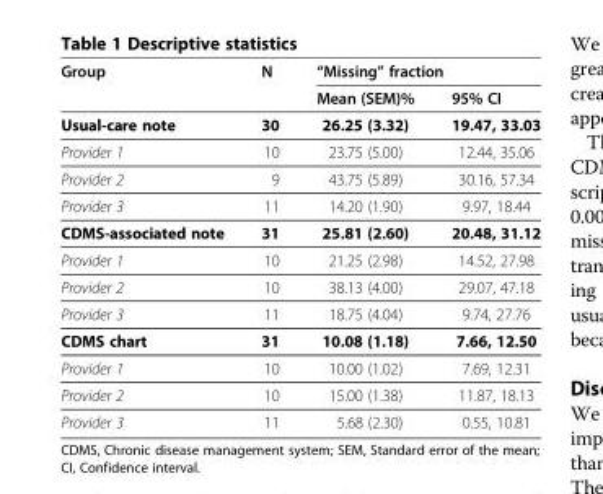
<table><thead><tr><td rowspan="2">Group</td><td rowspan="2">N</td><td colspan="2">“Missing” fraction</td></tr><tr><td>Mean (SEM)%</td><td>95% CI</td></tr></thead><tbody><tr><td>Usual-care note</td><td>30</td><td>26.25 (3.32)</td><td>19.47, 33.03</td></tr><tr><td>Provider 1</td><td>10</td><td>23.75 (5.00)</td><td>12.44, 35.06</td></tr><tr><td>Provider 2</td><td>9</td><td>43.75 (5.89)</td><td>30.16, 57.34</td></tr><tr><td>Provider 3</td><td>11</td><td>14.20 (1.90)</td><td>9.97, 18.44</td></tr><tr><td>CDMS-associated note</td><td>31</td><td>25.81 (2.60)</td><td>20.48, 31.12</td></tr><tr><td>Provider 1</td><td>10</td><td>21.25 (2.98)</td><td>14.52, 27.98</td></tr><tr><td>Provider 2</td><td>10</td><td>38.13 (4.00)</td><td>29.07, 47.18</td></tr><tr><td>Provider 3</td><td>11</td><td>18.75 (4.04)</td><td>9.74, 27.76</td></tr><tr><td>CDMS chart</td><td>31</td><td>10.08 (1.18)</td><td>7.66, 12.50</td></tr><tr><td>Provider 1</td><td>10</td><td>10.00 (1.02)</td><td>7.69, 12.31</td></tr><tr><td>Provider 2</td><td>10</td><td>15.00 (1.38)</td><td>11.87, 18.13</td></tr><tr><td>Provider 3</td><td>11</td><td>5.68 (2.30)</td><td>0.55, 10.81</td></tr></tbody></table>